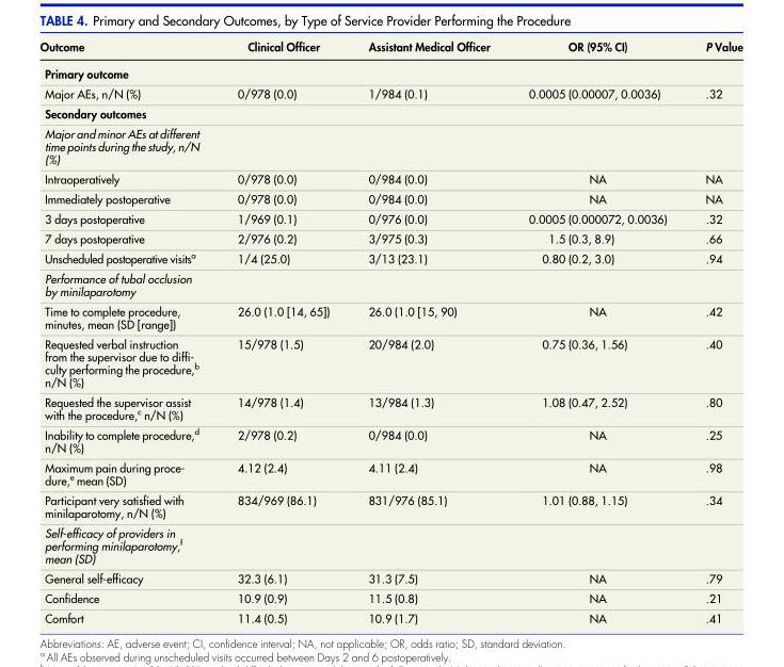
<table><thead><tr><td>Outcome</td><td>Clinical Officer</td><td>Assistant Medical Officer</td><td>OR (95% CI)</td><td>P Value</td></tr></thead><tbody><tr><td colspan="5">Primary outcome</td></tr><tr><td>Major AEs, n/N (%)</td><td>0/978 (0.0)</td><td>1/984 (0.1)</td><td>0.0005 (0.00007, 0.0036)</td><td>.32</td></tr><tr><td colspan="5">Secondary outcomes</td></tr><tr><td colspan="5">Major and minor AEs at different time points during the study, n/N (%)</td></tr><tr><td>Intraoperatively</td><td>0/978 (0.0)</td><td>0/984 (0.0)</td><td>NA</td><td>NA</td></tr><tr><td>Immediately postoperative</td><td>0/978 (0.0)</td><td>0/984 (0.0)</td><td>NA</td><td>NA</td></tr><tr><td>3 days postoperative</td><td>1/969 (0.1)</td><td>0/976 (0.0)</td><td>0.0005 (0.000072, 0.0036)</td><td>.32</td></tr><tr><td>7 days postoperative</td><td>2/976 (0.2)</td><td>3/975 (0.3)</td><td>1.5 (0.3, 8.9)</td><td>.66</td></tr><tr><td>Unscheduled postoperative visits<sup>a</sup></td><td>1/4 (25.0)</td><td>3/13 (23.1)</td><td>0.80 (0.2, 3.0)</td><td>.94</td></tr><tr><td colspan="5">Performance of tubal occlusion by minilaparotomy</td></tr><tr><td>Time to complete procedure, minutes, mean (SD [range])</td><td>26.0 (1.0 [14, 65])</td><td>26.0 (1.0 [15, 90)</td><td>NA</td><td>.42</td></tr><tr><td>Requested verbal instruction from the supervisor due to diffi- culty performing the procedure,b n/N (%)</td><td>15/978 (1.5)</td><td>20/984 (2.0)</td><td>0.75 (0.36, 1.56)</td><td>.40</td></tr><tr><td>Requested the supervisor assist with the procedure,<sup>c</sup> n/N (%)</td><td>14/978 (1.4)</td><td>13/984 (1.3)</td><td>1.08 (0.47, 2.52)</td><td>.80</td></tr><tr><td>Inability to complete procedure,<sup>d</sup> n/N (%)</td><td>2/978 (0.2)</td><td>0/984 (0.0)</td><td>NA</td><td>.25</td></tr><tr><td>Maximum pain during proce- dure,e mean (SD)</td><td>4.12 (2.4)</td><td>4.11 (2.4)</td><td>NA</td><td>.98</td></tr><tr><td>Participant very satisfied with minilaparotomy, n/N (%)</td><td>834/969 (86.1)</td><td>831/976 (85.1)</td><td>1.01 (0.88, 1.15)</td><td>.34</td></tr><tr><td colspan="5">Self-efficacy of providers in performing minilaparotomy,<sup>f</sup> mean (SD)</td></tr><tr><td>General self-efficacy</td><td>32.3 (6.1)</td><td>31.3 (7.5)</td><td>NA</td><td>.79</td></tr><tr><td>Confidence</td><td>10.9 (0.9)</td><td>11.5 (0.8)</td><td>NA</td><td>.21</td></tr><tr><td>Comfort</td><td>11.4 (0.5)</td><td>10.9 (1.7)</td><td>NA</td><td>.41</td></tr></tbody></table>